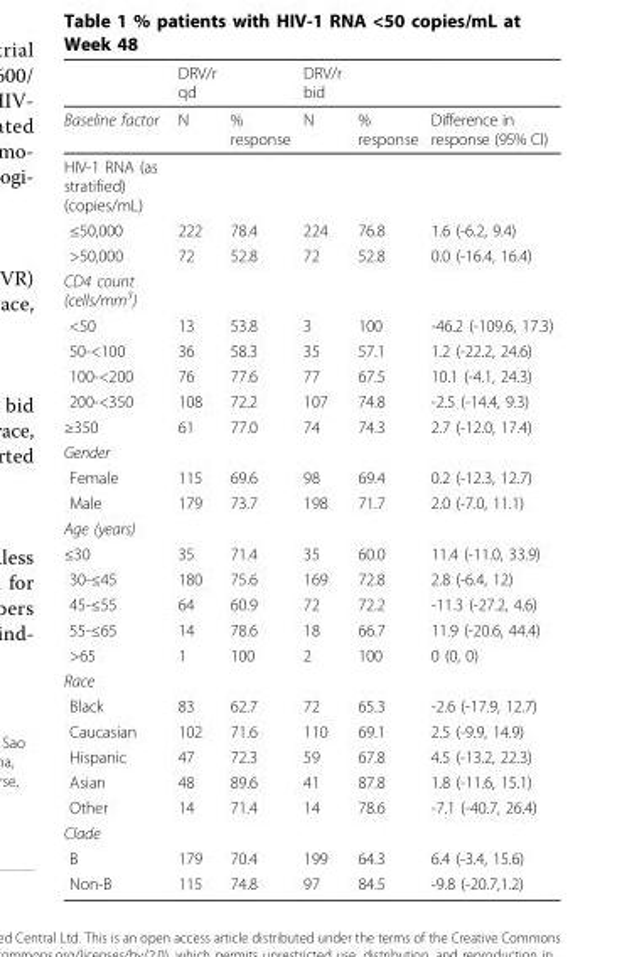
<table><thead><tr><td></td><td>DRV/r qd</td><td></td><td>DRV/r bid</td><td></td><td></td></tr></thead><tbody><tr><td>Baseline factor</td><td>N</td><td>% response</td><td>N</td><td>% response</td><td>Difference in response (95% CI)</td></tr><tr><td colspan="6">HIV-1 RNA (as stratified) (copies/mL)</td></tr><tr><td>≤50,000</td><td>222</td><td>78.4</td><td>224</td><td>76.8</td><td>1.6 (-6.2, 9.4)</td></tr><tr><td>&gt;50,000</td><td>72</td><td>52.8</td><td>72</td><td>52.8</td><td>0.0 (-16.4, 16.4)</td></tr><tr><td colspan="6">CD4 count (cells/mm<sup>3</sup>)</td></tr><tr><td>&lt;50</td><td>13</td><td>53.8</td><td>3</td><td>100</td><td>-46.2 (-109.6, 17.3)</td></tr><tr><td>50-&lt;100</td><td>36</td><td>58.3</td><td>35</td><td>57.1</td><td>1.2 (-22.2, 24.6)</td></tr><tr><td>100-&lt;200</td><td>76</td><td>77.6</td><td>77</td><td>67.5</td><td>10.1 (-4.1, 24.3)</td></tr><tr><td>200-&lt;350</td><td>108</td><td>72.2</td><td>107</td><td>74.8</td><td>-2.5 (-14.4, 9.3)</td></tr><tr><td>≥350</td><td>61</td><td>77.0</td><td>74</td><td>74.3</td><td>2.7 (-12.0, 17.4)</td></tr><tr><td colspan="6">Gender</td></tr><tr><td>Female</td><td>115</td><td>69.6</td><td>98</td><td>69.4</td><td>0.2 (-12.3, 12.7)</td></tr><tr><td>Male</td><td>179</td><td>73.7</td><td>198</td><td>71.7</td><td>2.0 (-7.0, 11.1)</td></tr><tr><td colspan="6">Age (years)</td></tr><tr><td>≤30</td><td>35</td><td>71.4</td><td>35</td><td>60.0</td><td>11.4 (-11.0, 33.9)</td></tr><tr><td>30-≤45</td><td>180</td><td>75.6</td><td>169</td><td>72.8</td><td>2.8 (-6.4, 12)</td></tr><tr><td>45-≤55</td><td>64</td><td>60.9</td><td>72</td><td>72.2</td><td>-11.3 (-27.2, 4.6)</td></tr><tr><td>55-≤65</td><td>14</td><td>78.6</td><td>18</td><td>66.7</td><td>11.9 (-20.6, 44.4)</td></tr><tr><td>&gt;65</td><td>1</td><td>100</td><td>2</td><td>100</td><td>0 (0, 0)</td></tr><tr><td colspan="6">Race</td></tr><tr><td>Black</td><td>83</td><td>62.7</td><td>72</td><td>65.3</td><td>-2.6 (-17.9, 12.7)</td></tr><tr><td>Caucasian</td><td>102</td><td>71.6</td><td>110</td><td>69.1</td><td>2.5 (-9.9, 14.9)</td></tr><tr><td>Hispanic</td><td>47</td><td>72.3</td><td>59</td><td>67.8</td><td>4.5 (-13.2, 22.3)</td></tr><tr><td>Asian</td><td>48</td><td>89.6</td><td>41</td><td>87.8</td><td>1.8 (-11.6, 15.1)</td></tr><tr><td>Other</td><td>14</td><td>71.4</td><td>14</td><td>78.6</td><td>-7.1 (-40.7, 26.4)</td></tr><tr><td colspan="6">Clade</td></tr><tr><td>B</td><td>179</td><td>70.4</td><td>199</td><td>64.3</td><td>6.4 (-3.4, 15.6)</td></tr><tr><td>Non-B</td><td>115</td><td>74.8</td><td>97</td><td>84.5</td><td>-9.8 (-20.7,1.2)</td></tr></tbody></table>